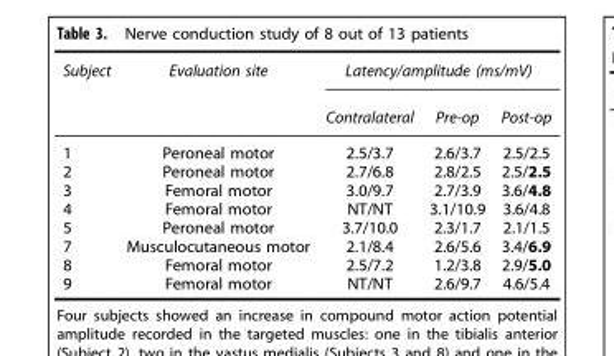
<table><thead><tr><td rowspan="2">Subject</td><td rowspan="2">Evaluation site</td><td colspan="3">Latency/amplitude (ms/mV)</td></tr><tr><td>Contralateral</td><td>Pre-op</td><td>Post-op</td></tr></thead><tbody><tr><td>1</td><td>Peroneal motor</td><td>2.5/3.7</td><td>2.6/3.7</td><td>2.5/2.5</td></tr><tr><td>2</td><td>Peroneal motor</td><td>2.7/6.8</td><td>2.8/2.5</td><td>2.5/2.5</td></tr><tr><td>3</td><td>Femoral motor</td><td>3.0/9.7</td><td>2.7/3.9</td><td>3.6/4.8</td></tr><tr><td>4</td><td>Femoral motor</td><td>NT/NT</td><td>3.1/10.9</td><td>3.6/4.8</td></tr><tr><td>5</td><td>Peroneal motor</td><td>3.7/10.0</td><td>2.3/1.7</td><td>2.1/1.5</td></tr><tr><td>7</td><td>Musculocutaneous motor</td><td>2.1/8.4</td><td>2.6/5.6</td><td>3.4/6.9</td></tr><tr><td>8</td><td>Femoral motor</td><td>2.5/7.2</td><td>1.2/3.8</td><td>2.9/5.0</td></tr><tr><td>9</td><td>Femoral motor</td><td>NT/NT</td><td>2.6/9.7</td><td>4.6/5.4</td></tr></tbody></table>